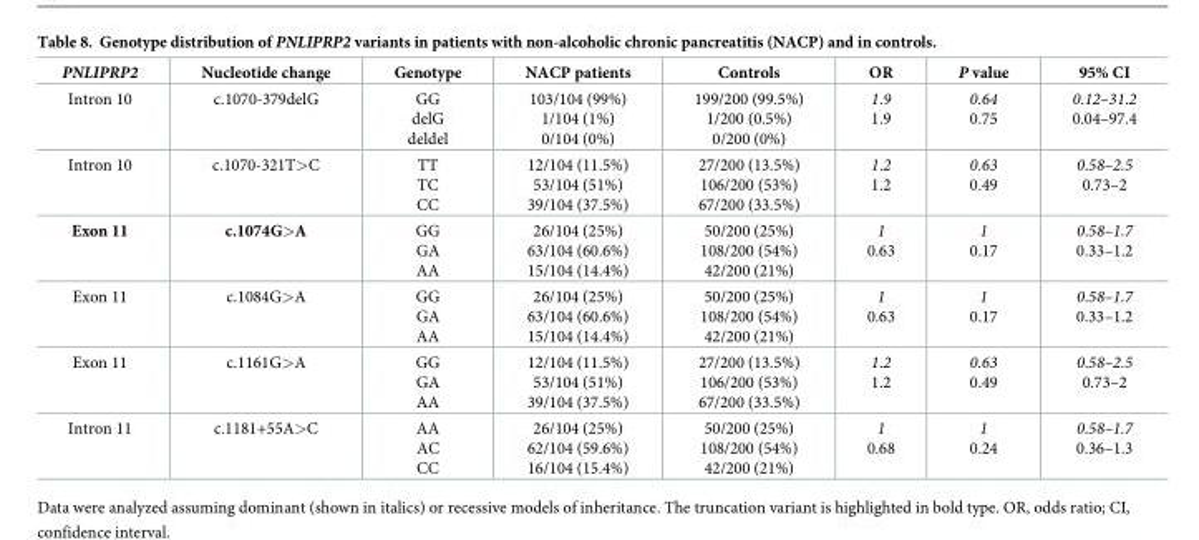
<table><thead><tr><td>PNLIPRP2</td><td>Nucleotide change</td><td>Genotype</td><td>NACP patients</td><td>Controls</td><td>OR</td><td>P value</td><td>95% CI</td></tr></thead><tbody><tr><td>Intron 10</td><td>c.1070-379delG</td><td>GG delG deldel</td><td>103/104 (99%) 1/104 (1%) 0/104 (0%)</td><td>199/200 (99.5%) 1/200 (0.5%) 0/200 (0%)</td><td>1.9 1.9</td><td>0.64 0.75</td><td>0.12–31.2 0.04–97.4</td></tr><tr><td>Intron 10</td><td>c.1070-321T&gt;C</td><td>TT TC CC</td><td>12/104 (11.5%) 53/104 (51%) 39/104 (37.5%)</td><td>27/200 (13.5%) 106/200 (53%) 67/200 (33.5%)</td><td>1.2 1.2</td><td>0.63 0.49</td><td>0.58–2.5 0.73–2</td></tr><tr><td>Exon 11</td><td>c.1074G&gt;A</td><td>GG GA AA</td><td>26/104 (25%) 63/104 (60.6%) 15/104 (14.4%)</td><td>50/200 (25%) 108/200 (54%) 42/200 (21%)</td><td>1 0.63</td><td>1 0.17</td><td>0.58–1.7 0.33–1.2</td></tr><tr><td>Exon 11</td><td>c.1084G&gt;A</td><td>GG GA AA</td><td>26/104 (25%) 63/104 (60.6%) 15/104 (14.4%)</td><td>50/200 (25%) 108/200 (54%) 42/200 (21%)</td><td>1 0.63</td><td>1 0.17</td><td>0.58–1.7 0.33–1.2</td></tr><tr><td>Exon 11</td><td>c.1161G&gt;A</td><td>GG GA AA</td><td>12/104 (11.5%) 53/104 (51%) 39/104 (37.5%)</td><td>27/200 (13.5%) 106/200 (53%) 67/200 (33.5%)</td><td>1.2 1.2</td><td>0.63 0.49</td><td>0.58–2.5 0.73–2</td></tr><tr><td>Intron 11</td><td>c.1181+55A&gt;C</td><td>AA AC CC</td><td>26/104 (25%) 62/104 (59.6%) 16/104 (15.4%)</td><td>50/200 (25%) 108/200 (54%) 42/200 (21%)</td><td>1 0.68</td><td>1 0.24</td><td>0.58–1.7 0.36–1.3</td></tr></tbody></table>